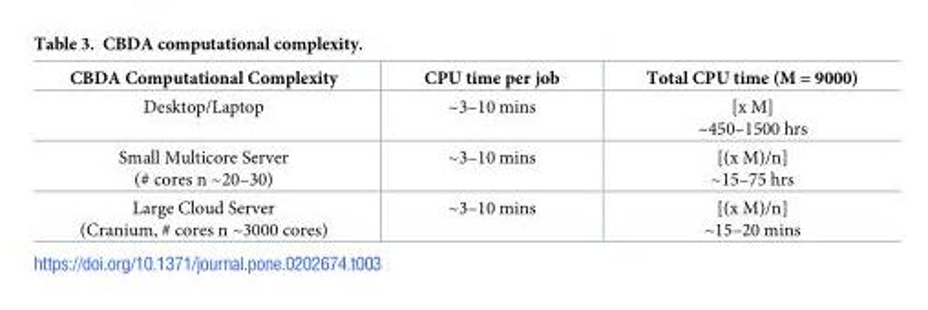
<table><thead><tr><td>CBDA Computational Complexity</td><td>CPU time per job</td><td>Total CPU time (M = 9000)</td></tr></thead><tbody><tr><td>Desktop/Laptop</td><td>~3–10 mins</td><td>[x M] ~450–1500 hrs</td></tr><tr><td>Small Multicore Server (# cores n ~20–30)</td><td>~3–10 mins</td><td>[(x M)/n] ~15–75 hrs</td></tr><tr><td>Large Cloud Server (Cranium, # cores n ~3000 cores)</td><td>~3–10 mins</td><td>[(x M)/n] ~15–20 mins</td></tr></tbody></table>